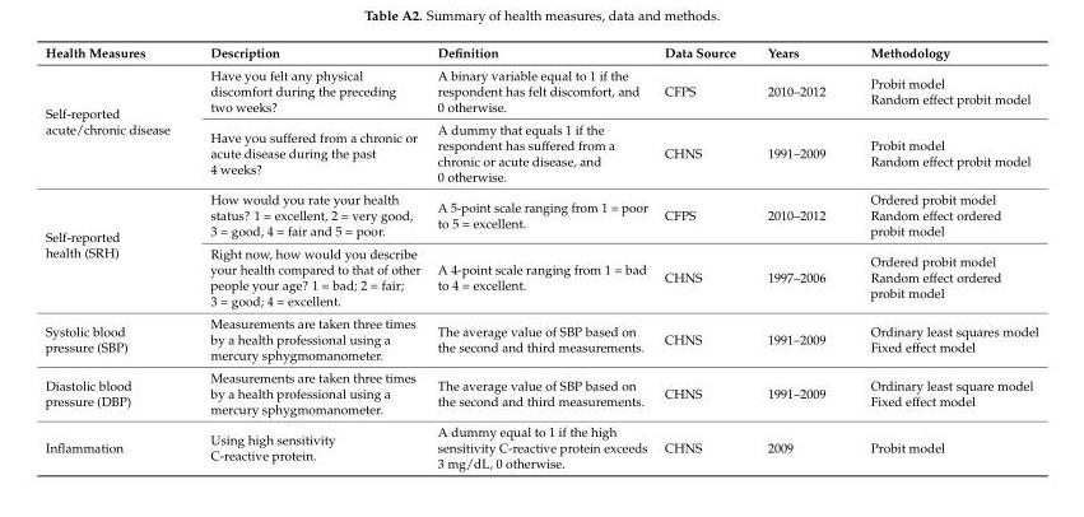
<table><thead><tr><td>Health Measures</td><td>Description</td><td>Definition</td><td>Data Source</td><td>Years</td><td>Methodology</td></tr></thead><tbody><tr><td rowspan="2">Self-reported acute/chronic disease</td><td>Have you felt any physical discomfort during the preceding two weeks?</td><td>A binary variable equal to 1 if the respondent has felt discomfort, and 0 otherwise.</td><td>CFPS</td><td>2010–2012</td><td>Probit model Random effect probit model</td></tr><tr><td>Have you suffered from a chronic or acute disease during the past 4 weeks?</td><td>A dummy that equals 1 if the respondent has suffered from a chronic or acute disease, and 0 otherwise.</td><td>CHNS</td><td>1991–2009</td><td>Probit model Random effect probit model</td></tr><tr><td rowspan="2">Self-reported health (SRH)</td><td>How would you rate your health status? 1 = excellent, 2 = very good, 3 = good, 4 = fair and 5 = poor.</td><td>A 5-point scale ranging from 1 = poor to 5 = excellent.</td><td>CFPS</td><td>2010–2012</td><td>Ordered probit model Random effect ordered probit model</td></tr><tr><td>Right now, how would you describe your health compared to that of other people your age? 1 = bad; 2 = fair; 3 = good; 4 = excellent.</td><td>A 4-point scale ranging from 1 = bad to 4 = excellent.</td><td>CHNS</td><td>1997–2006</td><td>Ordered probit model Random effect ordered probit model</td></tr><tr><td>Systolic blood pressure (SBP)</td><td>Measurements are taken three times by a health professional using a mercury sphygmomanometer.</td><td>The average value of SBP based on the second and third measurements.</td><td>CHNS</td><td>1991–2009</td><td>Ordinary least squares model Fixed effect model</td></tr><tr><td>Diastolic blood pressure (DBP)</td><td>Measurements are taken three times by a health professional using a mercury sphygmomanometer.</td><td>The average value of SBP based on the second and third measurements.</td><td>CHNS</td><td>1991–2009</td><td>Ordinary least square model Fixed effect model</td></tr><tr><td>Inflammation</td><td>Using high sensitivity C-reactive protein.</td><td>A dummy equal to 1 if the high sensitivity C-reactive protein exceeds 3 mg/dL, 0 otherwise.</td><td>CHNS</td><td>2009</td><td>Probit model</td></tr></tbody></table>